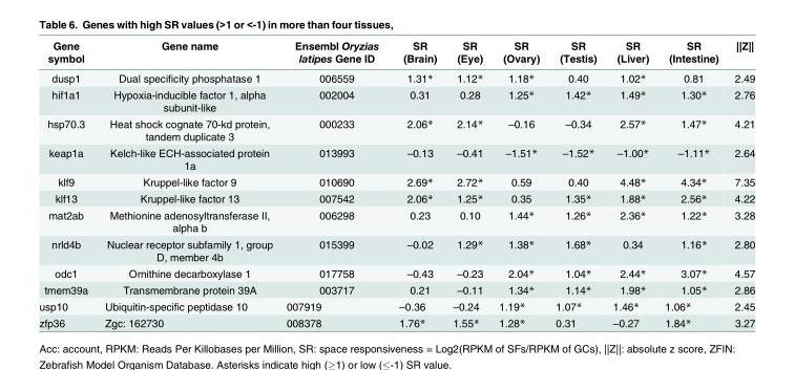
<table><thead><tr><td>Gene symbol</td><td>Gene name</td><td>Ensembl Oryzias latipes Gene ID</td><td>SR (Brain)</td><td>SR (Eye)</td><td>SR (Ovary)</td><td>SR (Testis)</td><td>SR (Liver)</td><td>SR (Intestine)</td><td>||Z||</td></tr></thead><tbody><tr><td>dusp1</td><td>Dual specificity phosphatase 1</td><td>006559</td><td>1.31*</td><td>1.12*</td><td>1.18*</td><td>0.40</td><td>1.02*</td><td>0.81</td><td>2.49</td></tr><tr><td>hif1a1</td><td>Hypoxia-inducible factor 1, alpha subunit-like</td><td>002004</td><td>0.31</td><td>0.28</td><td>1.25*</td><td>1.42*</td><td>1.49*</td><td>1.30*</td><td>2.76</td></tr><tr><td>hsp70.3</td><td>Heat shock cognate 70-kd protein, tandem duplicate 3</td><td>000233</td><td>2.06*</td><td>2.14*</td><td>–0.16</td><td>–0.34</td><td>2.57*</td><td>1.47*</td><td>4.21</td></tr><tr><td>keap1a</td><td>Kelch-like ECH-associated protein 1a</td><td>013993</td><td>–0.13</td><td>–0.41</td><td>–1.51*</td><td>–1.52*</td><td>–1.00*</td><td>–1.11*</td><td>2.64</td></tr><tr><td>klf9</td><td>Kruppel-like factor 9</td><td>010690</td><td>2.69*</td><td>2.72*</td><td>0.59</td><td>0.40</td><td>4.48*</td><td>4.34*</td><td>7.35</td></tr><tr><td>klf13</td><td>Kruppel-like factor 13</td><td>007542</td><td>2.06*</td><td>1.25*</td><td>0.35</td><td>1.35*</td><td>1.88*</td><td>2.56*</td><td>4.22</td></tr><tr><td>mat2ab</td><td>Methionine adenosyltransferase II, alpha b</td><td>006298</td><td>0.23</td><td>0.10</td><td>1.44*</td><td>1.26*</td><td>2.36*</td><td>1.22*</td><td>3.28</td></tr><tr><td>nrld4b</td><td>Nuclear receptor subfamily 1, group D, member 4b</td><td>015399</td><td>–0.02</td><td>1.29*</td><td>1.38*</td><td>1.68*</td><td>0.34</td><td>1.16*</td><td>2.80</td></tr><tr><td>odc1</td><td>Ornithine decarboxylase 1</td><td>017758</td><td>–0.43</td><td>–0.23</td><td>2.04*</td><td>1.04*</td><td>2.44*</td><td>3.07*</td><td>4.57</td></tr><tr><td>tmem39a</td><td>Transmembrane protein 39A</td><td>003717</td><td>0.21</td><td>–0.11</td><td>1.34*</td><td>1.14*</td><td>1.98*</td><td>1.05*</td><td>2.86</td></tr><tr><td>usp10</td><td>Ubiquitin-specific peptidase 10</td><td>007919</td><td>–0.36</td><td>–0.24</td><td>1.19*</td><td>1.07*</td><td>1.46*</td><td>1.06*</td><td>2.45</td></tr><tr><td>zfp36</td><td>Zgc: 162730</td><td>008378</td><td>1.76*</td><td>1.55*</td><td>1.28*</td><td>0.31</td><td>–0.27</td><td>1.84*</td><td>3.27</td></tr></tbody></table>